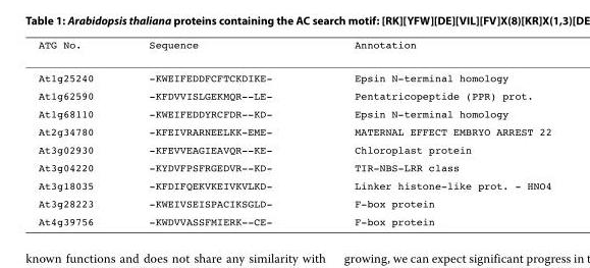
<table><thead><tr><td>ATG No.</td><td>Sequence</td><td>Annotation</td></tr></thead><tbody><tr><td>At1g25240</td><td>-KWEIFEDDFCFTCKDIKE-</td><td>Epsin N-terminal homology</td></tr><tr><td>At1g62590</td><td>-KFDVVISLGEKMQR--LE-</td><td>Pentatricopeptide (PPR) prot.</td></tr><tr><td>At1g68110</td><td>-KWEIFEDDYRCFDR--KD-</td><td>Epsin N-terminal homology</td></tr><tr><td>At2g34780</td><td>-KFEIVRARNEELKK-EME-</td><td>MATERNAL EFFECT EMBRYO ARREST 22</td></tr><tr><td>At3g02930</td><td>-KFEVVEAGIEAVQR--KE-</td><td>Chloroplast protein</td></tr><tr><td>At3g04220</td><td>-KYDVFPSFRGEDVR--KD-</td><td>TIR-NBS-LRR class</td></tr><tr><td>At3g18035</td><td>-KFDIFQEKVKEIVKVLKD-</td><td>Linker histone-like prot. - HNO4</td></tr><tr><td>At3g28223</td><td>-KWEIVSEISPACIKSGLD-</td><td>F-box protein</td></tr><tr><td>At4g39756</td><td>-KWDVVASSFMIERK--CE-</td><td>F-box protein</td></tr></tbody></table>